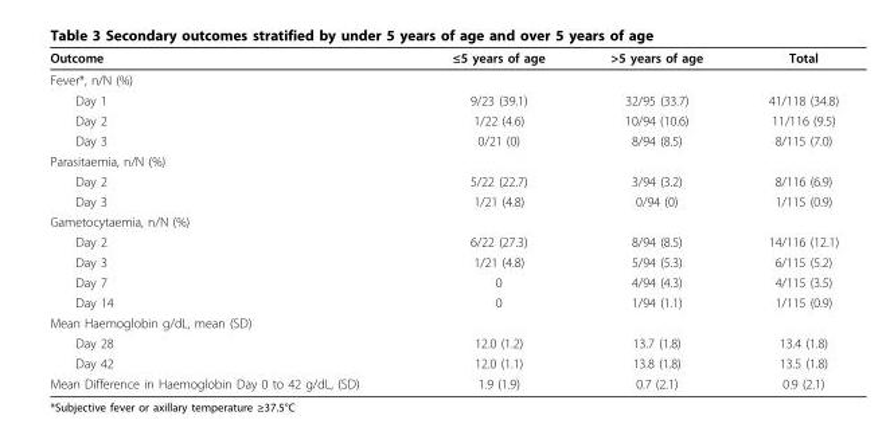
<table><thead><tr><td>Outcome</td><td>≤5 years of age</td><td>&gt;5 years of age</td><td>Total</td></tr></thead><tbody><tr><td colspan="4">Fever*, n/N (%)</td></tr><tr><td>Day 1</td><td>9/23 (39.1)</td><td>32/95 (33.7)</td><td>41/118 (34.8)</td></tr><tr><td>Day 2</td><td>1/22 (4.6)</td><td>10/94 (10.6)</td><td>11/116 (9.5)</td></tr><tr><td>Day 3</td><td>0/21 (0)</td><td>8/94 (8.5)</td><td>8/115 (7.0)</td></tr><tr><td colspan="4">Parasitaemia, n/N (%)</td></tr><tr><td>Day 2</td><td>5/22 (22.7)</td><td>3/94 (3.2)</td><td>8/116 (6.9)</td></tr><tr><td>Day 3</td><td>1/21 (4.8)</td><td>0/94 (0)</td><td>1/115 (0.9)</td></tr><tr><td colspan="4">Gametocytaemia, n/N (%)</td></tr><tr><td>Day 2</td><td>6/22 (27.3)</td><td>8/94 (8.5)</td><td>14/116 (12.1)</td></tr><tr><td>Day 3</td><td>1/21 (4.8)</td><td>5/94 (5.3)</td><td>6/115 (5.2)</td></tr><tr><td>Day 7</td><td>0</td><td>4/94 (4.3)</td><td>4/115 (3.5)</td></tr><tr><td>Day 14</td><td>0</td><td>1/94 (1.1)</td><td>1/115 (0.9)</td></tr><tr><td colspan="4">Mean Haemoglobin g/dL, mean (SD)</td></tr><tr><td>Day 28</td><td>12.0 (1.2)</td><td>13.7 (1.8)</td><td>13.4 (1.8)</td></tr><tr><td>Day 42</td><td>12.0 (1.1)</td><td>13.8 (1.8)</td><td>13.5 (1.8)</td></tr><tr><td>Mean Difference in Haemoglobin Day 0 to 42 g/dL, (SD)</td><td>1.9 (1.9)</td><td>0.7 (2.1)</td><td>0.9 (2.1)</td></tr></tbody></table>